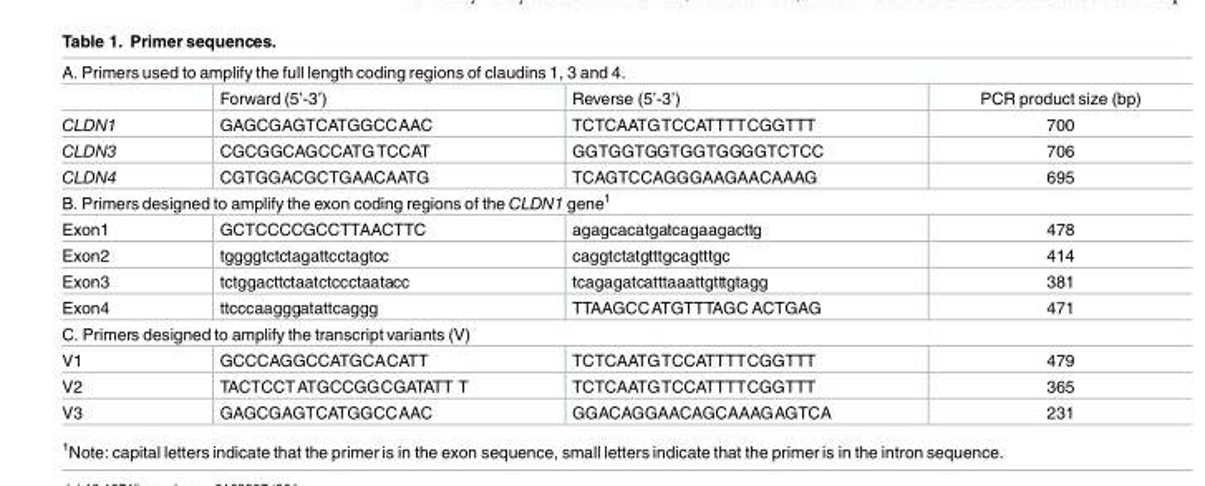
<table><tbody><tr><td colspan="4">A. Primers used to amplify the full length coding regions of claudins 1, 3 and 4.</td></tr><tr><td></td><td>Forward (5’-3’)</td><td>Reverse (5’-3’)</td><td>PCR product size (bp)</td></tr><tr><td>CLDN1</td><td>GAGCGAGTCATGGCCAAC</td><td>TCTCAATGTCCATTTTCGGTTT</td><td>700</td></tr><tr><td>CLDN3</td><td>CGCGGCAGCCATGTCCAT</td><td>GGTGGTGGTGGTGGGGTCTCC</td><td>706</td></tr><tr><td>CLDN4</td><td>CGTGGACGCTGAACAATG</td><td>TCAGTCCAGGGAAGAACAAAG</td><td>695</td></tr><tr><td colspan="4">B. Primers designed to amplify the exon coding regions of the CLDN1 gene<sup>1</sup></td></tr><tr><td>Exon1</td><td>GCTCCCCGCCTTAACTTC</td><td>agagcacatgatcagaagacttg</td><td>478</td></tr><tr><td>Exon2</td><td>tggggtctctagattcctagtcc</td><td>caggtctatgtttgcagtttgc</td><td>414</td></tr><tr><td>Exon3</td><td>tctggacttctaatctccctaatacc</td><td>tcagagatcatttaaattgtttgtagg</td><td>381</td></tr><tr><td>Exon4</td><td>ttcccaagggatattcaggg</td><td>TTAAGCCATGTTTAGC ACTGAG</td><td>471</td></tr><tr><td colspan="4">C. Primers designed to amplify the transcript variants (V)</td></tr><tr><td>V1</td><td>GCCCAGGCCATGCACATT</td><td>TCTCAATGTCCATTTTCGGTTT</td><td>479</td></tr><tr><td>V2</td><td>TACTCCTATGCCGGCGATATT T</td><td>TCTCAATGTCCATTTTCGGTTT</td><td>365</td></tr><tr><td>V3</td><td>GAGCGAGTCATGGCCAAC</td><td>GGACAGGAACAGCAAAGAGTCA</td><td>231</td></tr></tbody></table>